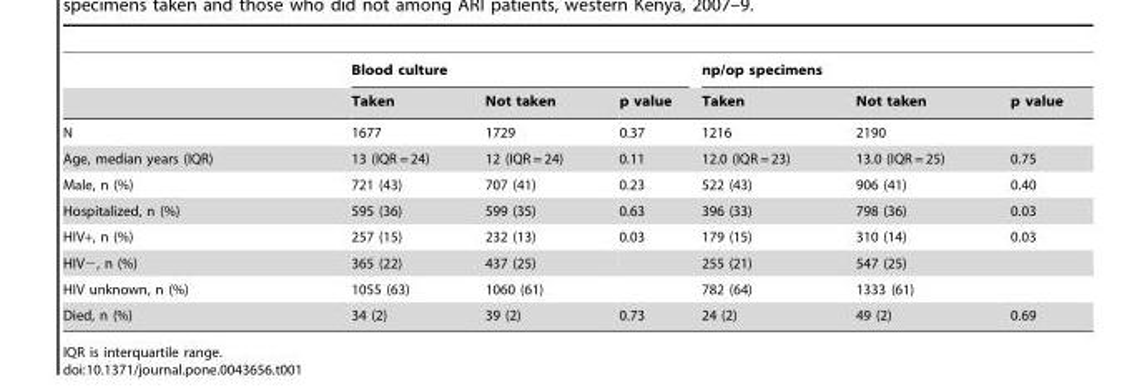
<table><thead><tr><td rowspan="2"></td><td colspan="3">Blood culture</td><td colspan="3">np/op specimens</td></tr><tr><td>Taken</td><td>Not taken</td><td>p value</td><td>Taken</td><td>Not taken</td><td>p value</td></tr></thead><tbody><tr><td>N</td><td>1677</td><td>1729</td><td>0.37</td><td>1216</td><td>2190</td><td></td></tr><tr><td>Age, median years (IQR)</td><td>13 (IQR = 24)</td><td>12 (IQR = 24)</td><td>0.11</td><td>12.0 (IQR = 23)</td><td>13.0 (IQR = 25)</td><td>0.75</td></tr><tr><td>Male, n (%)</td><td>721 (43)</td><td>707 (41)</td><td>0.23</td><td>522 (43)</td><td>906 (41)</td><td>0.40</td></tr><tr><td>Hospitalized, n (%)</td><td>595 (36)</td><td>599 (35)</td><td>0.63</td><td>396 (33)</td><td>798 (36)</td><td>0.03</td></tr><tr><td>HIV+, n (%)</td><td>257 (15)</td><td>232 (13)</td><td>0.03</td><td>179 (15)</td><td>310 (14)</td><td>0.03</td></tr><tr><td>HIV−, n (%)</td><td>365 (22)</td><td>437 (25)</td><td></td><td>255 (21)</td><td>547 (25)</td><td></td></tr><tr><td>HIV unknown, n (%)</td><td>1055 (63)</td><td>1060 (61)</td><td></td><td>782 (64)</td><td>1333 (61)</td><td></td></tr><tr><td>Died, n (%)</td><td>34 (2)</td><td>39 (2)</td><td>0.73</td><td>24 (2)</td><td>49 (2)</td><td>0.69</td></tr></tbody></table>